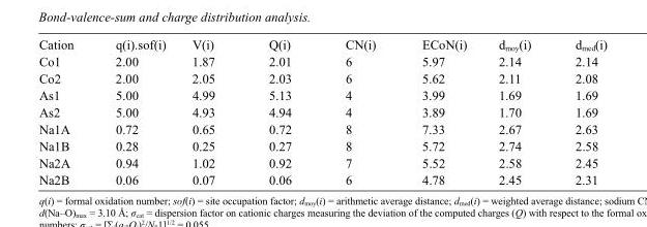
<table><tbody><tr><td>Cation</td><td>q(i).sof(i)</td><td>V(i)</td><td>Q(i)</td><td>CN(i)</td><td>ECoN(i)</td><td>d<sub>moy</sub>(i)</td><td>d<sub>med</sub>(i)</td></tr><tr><td>Co1</td><td>2.00</td><td>1.87</td><td>2.01</td><td>6</td><td>5.97</td><td>2.14</td><td>2.14</td></tr><tr><td>Co2</td><td>2.00</td><td>2.05</td><td>2.03</td><td>6</td><td>5.62</td><td>2.11</td><td>2.08</td></tr><tr><td>As1</td><td>5.00</td><td>4.99</td><td>5.13</td><td>4</td><td>3.99</td><td>1.69</td><td>1.69</td></tr><tr><td>As2</td><td>5.00</td><td>4.93</td><td>4.94</td><td>4</td><td>3.89</td><td>1.70</td><td>1.69</td></tr><tr><td>Na1A</td><td>0.72</td><td>0.65</td><td>0.72</td><td>8</td><td>7.33</td><td>2.67</td><td>2.63</td></tr><tr><td>Na1B</td><td>0.28</td><td>0.25</td><td>0.27</td><td>8</td><td>5.72</td><td>2.74</td><td>2.58</td></tr><tr><td>Na2A</td><td>0.94</td><td>1.02</td><td>0.92</td><td>7</td><td>5.52</td><td>2.58</td><td>2.45</td></tr><tr><td>Na2B</td><td>0.06</td><td>0.07</td><td>0.06</td><td>6</td><td>4.78</td><td>2.45</td><td>2.31</td></tr></tbody></table>